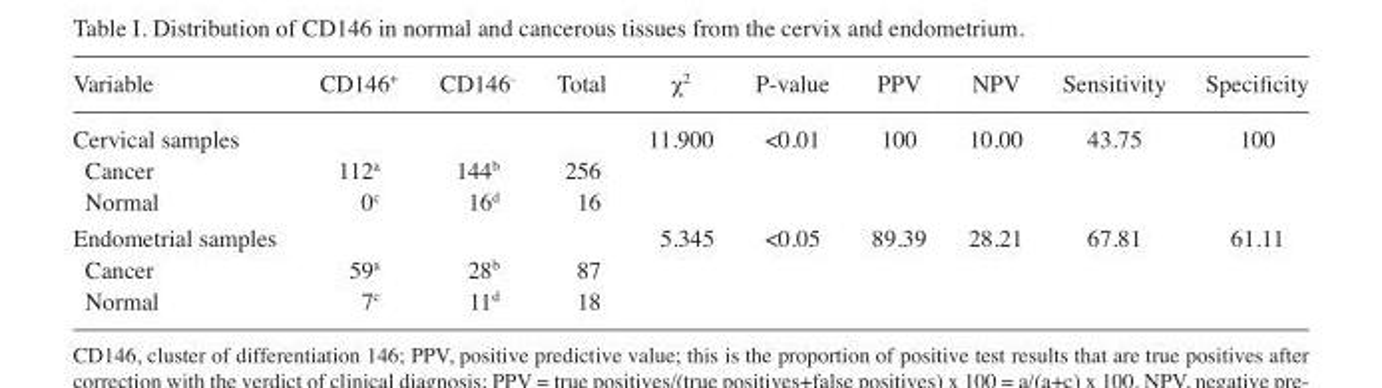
<table><thead><tr><td>Variable</td><td>CD146<sup>+</sup></td><td>CD146<sup>-</sup></td><td>Total</td><td>χ<sup>2</sup></td><td>P-value</td><td>PPV</td><td>NPV</td><td>Sensitivity</td><td>Specificity</td></tr></thead><tbody><tr><td>Cervical samples</td><td></td><td></td><td></td><td>11.900</td><td>&lt;0.01</td><td>100</td><td>10.00</td><td>43.75</td><td>100</td></tr><tr><td>Cancer</td><td>112<sup>a</sup></td><td>144<sup>b</sup></td><td>256</td><td></td><td></td><td></td><td></td><td></td><td></td></tr><tr><td>Normal</td><td>0<sup>c</sup></td><td>16<sup>d</sup></td><td>16</td><td></td><td></td><td></td><td></td><td></td><td></td></tr><tr><td>Endometrial samples</td><td></td><td></td><td></td><td>5.345</td><td>&lt;0.05</td><td>89.39</td><td>28.21</td><td>67.81</td><td>61.11</td></tr><tr><td>Cancer</td><td>59<sup>a</sup></td><td>28<sup>b</sup></td><td>87</td><td></td><td></td><td></td><td></td><td></td><td></td></tr><tr><td>Normal</td><td>7<sup>c</sup></td><td>11<sup>d</sup></td><td>18</td><td></td><td></td><td></td><td></td><td></td><td></td></tr></tbody></table>